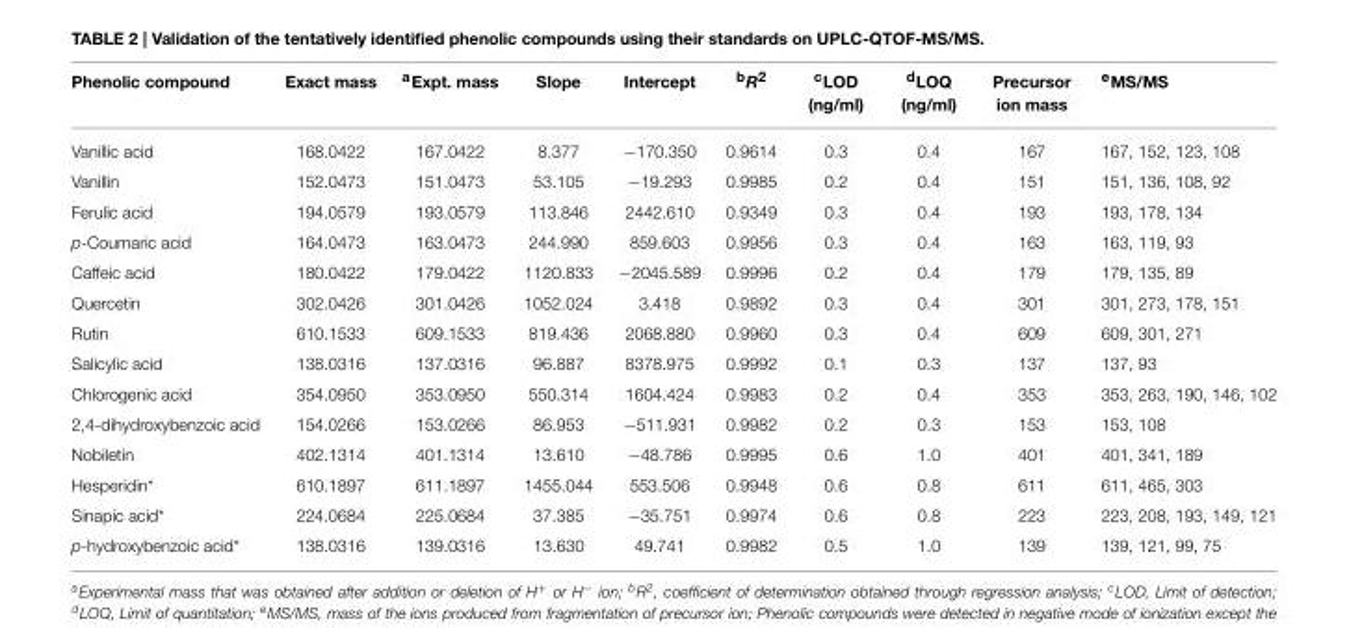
<table><thead><tr><td>Phenolic compound</td><td>Exact mass</td><td><sup>a</sup>Expt. mass</td><td>Slope</td><td>Intercept</td><td><sup>b</sup>R<sup>2</sup></td><td><sup>c</sup>LOD (ng/ml)</td><td><sup>d</sup>LOQ (ng/ml)</td><td>Precursor ion mass</td><td><sup>e</sup>MS/MS</td></tr></thead><tbody><tr><td>Vanillic acid</td><td>168.0422</td><td>167.0422</td><td>8.377</td><td>−170.350</td><td>0.9614</td><td>0.3</td><td>0.4</td><td>167</td><td>167, 152, 123, 108</td></tr><tr><td>Vanillin</td><td>152.0473</td><td>151.0473</td><td>53.105</td><td>−19.293</td><td>0.9985</td><td>0.2</td><td>0.4</td><td>151</td><td>151, 136, 108, 92</td></tr><tr><td>Ferulic acid</td><td>194.0579</td><td>193.0579</td><td>113.846</td><td>2442.610</td><td>0.9349</td><td>0.3</td><td>0.4</td><td>193</td><td>193, 178, 134</td></tr><tr><td>p-Coumaric acid</td><td>164.0473</td><td>163.0473</td><td>244.990</td><td>859.603</td><td>0.9956</td><td>0.3</td><td>0.4</td><td>163</td><td>163, 119, 93</td></tr><tr><td>Caffeic acid</td><td>180.0422</td><td>179.0422</td><td>1120.833</td><td>−2045.589</td><td>0.9996</td><td>0.2</td><td>0.4</td><td>179</td><td>179, 135, 89</td></tr><tr><td>Quercetin</td><td>302.0426</td><td>301.0426</td><td>1052.024</td><td>3.418</td><td>0.9892</td><td>0.3</td><td>0.4</td><td>301</td><td>301, 273, 178, 151</td></tr><tr><td>Rutin</td><td>610.1533</td><td>609.1533</td><td>819.436</td><td>2068.880</td><td>0.9960</td><td>0.3</td><td>0.4</td><td>609</td><td>609, 301, 271</td></tr><tr><td>Salicylic acid</td><td>138.0316</td><td>137.0316</td><td>96.887</td><td>8378.975</td><td>0.9992</td><td>0.1</td><td>0.3</td><td>137</td><td>137, 93</td></tr><tr><td>Chlorogenic acid</td><td>354.0950</td><td>353.0950</td><td>550.314</td><td>1604.424</td><td>0.9983</td><td>0.2</td><td>0.4</td><td>353</td><td>353, 263, 190, 146, 102</td></tr><tr><td>2,4-dihydroxybenzoic acid</td><td>154.0266</td><td>153.0266</td><td>86.953</td><td>−511.931</td><td>0.9982</td><td>0.2</td><td>0.3</td><td>153</td><td>153, 108</td></tr><tr><td>Nobiletin</td><td>402.1314</td><td>401.1314</td><td>13.610</td><td>−48.786</td><td>0.9995</td><td>0.6</td><td>1.0</td><td>401</td><td>401, 341, 189</td></tr><tr><td>Hesperidin*</td><td>610.1897</td><td>611.1897</td><td>1455.044</td><td>553.506</td><td>0.9948</td><td>0.6</td><td>0.8</td><td>611</td><td>611, 465, 303</td></tr><tr><td>Sinapic acid*</td><td>224.0684</td><td>225.0684</td><td>37.385</td><td>−35.751</td><td>0.9974</td><td>0.6</td><td>0.8</td><td>223</td><td>223, 208, 193, 149, 121</td></tr><tr><td>p-hydroxybenzoic acid*</td><td>138.0316</td><td>139.0316</td><td>13.630</td><td>49.741</td><td>0.9982</td><td>0.5</td><td>1.0</td><td>139</td><td>139, 121, 99, 75</td></tr></tbody></table>